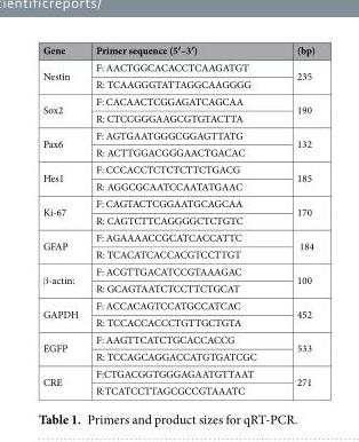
<table><thead><tr><td>Gene</td><td>Primer sequence (5′–3′)</td><td>(bp)</td></tr></thead><tbody><tr><td rowspan="2">Nestin</td><td>F: AACTGGCACACCTCAAGATGT</td><td rowspan="2">235</td></tr><tr><td>R: TCAAGGGTATTAGGCAAGGGG</td></tr><tr><td rowspan="2">Sox2</td><td>F: CACAACTCGGAGATCAGCAA</td><td rowspan="2">190</td></tr><tr><td>R: CTCCGGGAAGCGTGTACTTA</td></tr><tr><td rowspan="2">Pax6</td><td>F: AGTGAATGGGCGGAGTTATG</td><td rowspan="2">132</td></tr><tr><td>R: ACTTGGACGGGAACTGACAC</td></tr><tr><td rowspan="2">Hes1</td><td>F: CCCACCTCTCTCTTCTGACG</td><td rowspan="2">185</td></tr><tr><td>R: AGGCGCAATCCAATATGAAC</td></tr><tr><td rowspan="2">Ki-67</td><td>F: CAGTACTCGGAATGCAGCAA</td><td rowspan="2">170</td></tr><tr><td>R: CAGTCTTCAGGGGCTCTGTC</td></tr><tr><td rowspan="2">GFAP</td><td>F: AGAAAACCGCATCACCATTC</td><td rowspan="2">184</td></tr><tr><td>R: TCACATCACCACGTCCTTGT</td></tr><tr><td rowspan="2">β-actin:</td><td>F: ACGTTGACATCCGTAAAGAC</td><td rowspan="2">100</td></tr><tr><td>R: GCAGTAATCTCCTTCTGCAT</td></tr><tr><td rowspan="2">GAPDH</td><td>F: ACCACAGTCCATGCCATCAC</td><td rowspan="2">452</td></tr><tr><td>R: TCCACCACCCTGTTGCTGTA</td></tr><tr><td rowspan="2">EGFP</td><td>F: AAGTTCATCTGCACCACCG</td><td rowspan="2">533</td></tr><tr><td>R: TCCAGCAGGACCATGTGATCGC</td></tr><tr><td rowspan="2">CRE</td><td>F:CTGACGGTGGGAGAATGTTAAT</td><td rowspan="2">271</td></tr><tr><td>R:TCATCCTTAGCGCCGTAAATC</td></tr></tbody></table>